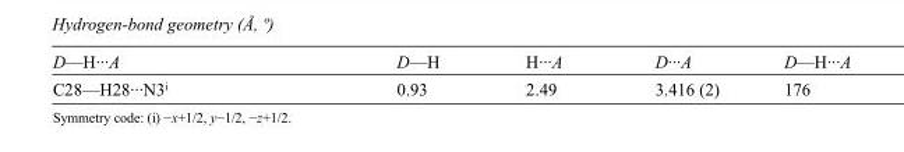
<table><tbody><tr><td>D—H···A</td><td>D—H</td><td>H···A</td><td>D···A</td><td>D—H···A</td></tr><tr><td>C28—H28···N3<sup>i</sup></td><td>0.93</td><td>2.49</td><td>3.416 (2)</td><td>176</td></tr></tbody></table>